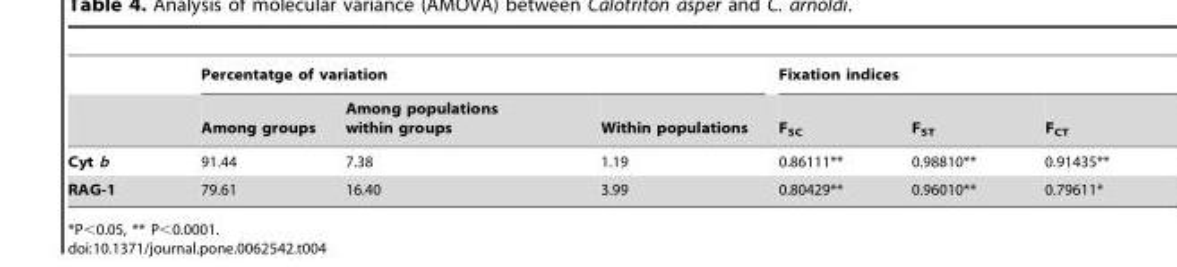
<table><thead><tr><td rowspan="2"></td><td colspan="3">Percentatge of variation</td><td colspan="3">Fixation indices</td></tr><tr><td>Among groups</td><td>Among populations within groups</td><td>Within populations</td><td>F<sub>SC</sub></td><td>F<sub>ST</sub></td><td>F<sub>CT</sub></td></tr></thead><tbody><tr><td>Cyt b</td><td>91.44</td><td>7.38</td><td>1.19</td><td>0.86111**</td><td>0.98810**</td><td>0.91435**</td></tr><tr><td>RAG-1</td><td>79.61</td><td>16.40</td><td>3.99</td><td>0.80429**</td><td>0.96010**</td><td>0.79611*</td></tr></tbody></table>